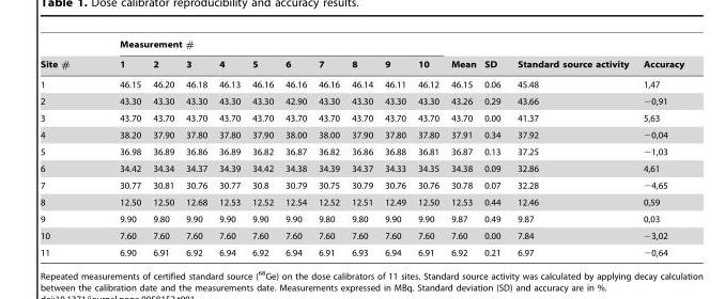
<table><thead><tr><td rowspan="2">Site #</td><td colspan="10">Measurement #</td><td rowspan="2">Mean</td><td rowspan="2">SD</td><td rowspan="2">Standard source activity</td><td rowspan="2">Accuracy</td></tr><tr><td>1</td><td>2</td><td>3</td><td>4</td><td>5</td><td>6</td><td>7</td><td>8</td><td>9</td><td>10</td></tr></thead><tbody><tr><td>1</td><td>46.15</td><td>46.20</td><td>46.18</td><td>46.13</td><td>46.16</td><td>46.16</td><td>46.16</td><td>46.14</td><td>46.11</td><td>46.12</td><td>46.15</td><td>0.06</td><td>45.48</td><td>1,47</td></tr><tr><td>2</td><td>43.30</td><td>43.30</td><td>43.30</td><td>43.30</td><td>43.30</td><td>42.90</td><td>43.30</td><td>43.30</td><td>43.30</td><td>43.30</td><td>43.26</td><td>0.29</td><td>43.66</td><td>−0,91</td></tr><tr><td>3</td><td>43.70</td><td>43.70</td><td>43.70</td><td>43.70</td><td>43.70</td><td>43.70</td><td>43.70</td><td>43.70</td><td>43.70</td><td>43.70</td><td>43.70</td><td>0.00</td><td>41.37</td><td>5,63</td></tr><tr><td>4</td><td>38.20</td><td>37.90</td><td>37.80</td><td>37.80</td><td>37.90</td><td>38.00</td><td>38.00</td><td>37.90</td><td>37.80</td><td>37.80</td><td>37.91</td><td>0.34</td><td>37.92</td><td>−0,04</td></tr><tr><td>5</td><td>36.98</td><td>36.89</td><td>36.86</td><td>36.89</td><td>36.82</td><td>36.87</td><td>36.82</td><td>36.86</td><td>36.88</td><td>36.81</td><td>36.87</td><td>0.13</td><td>37.25</td><td>−1,03</td></tr><tr><td>6</td><td>34.42</td><td>34.34</td><td>34.37</td><td>34.39</td><td>34.42</td><td>34.38</td><td>34.39</td><td>34.37</td><td>34.33</td><td>34.35</td><td>34.38</td><td>0.09</td><td>32.86</td><td>4,61</td></tr><tr><td>7</td><td>30.77</td><td>30.81</td><td>30.76</td><td>30.77</td><td>30.8</td><td>30.79</td><td>30.75</td><td>30.79</td><td>30.76</td><td>30.76</td><td>30.78</td><td>0.07</td><td>32.28</td><td>−4,65</td></tr><tr><td>8</td><td>12.50</td><td>12.50</td><td>12.68</td><td>12.53</td><td>12.52</td><td>12.54</td><td>12.52</td><td>12.51</td><td>12.49</td><td>12.50</td><td>12.53</td><td>0.44</td><td>12.46</td><td>0,59</td></tr><tr><td>9</td><td>9.90</td><td>9.80</td><td>9.90</td><td>9.90</td><td>9.90</td><td>9.90</td><td>9.80</td><td>9.80</td><td>9.90</td><td>9.90</td><td>9.87</td><td>0.49</td><td>9.87</td><td>0,03</td></tr><tr><td>10</td><td>7.60</td><td>7.60</td><td>7.60</td><td>7.60</td><td>7.60</td><td>7.60</td><td>7.60</td><td>7.60</td><td>7.60</td><td>7.60</td><td>7.60</td><td>0.00</td><td>7.84</td><td>−3,02</td></tr><tr><td>11</td><td>6.90</td><td>6.91</td><td>6.92</td><td>6.94</td><td>6.92</td><td>6.94</td><td>6.91</td><td>6.93</td><td>6.94</td><td>6.91</td><td>6.92</td><td>0.21</td><td>6.97</td><td>−0,64</td></tr></tbody></table>